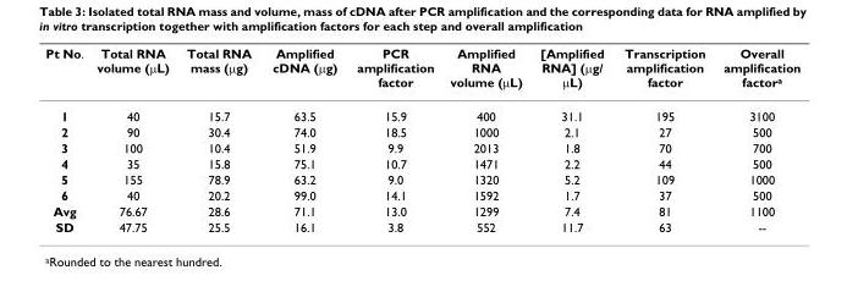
<table><thead><tr><td>Pt No.</td><td>Total RNA volume (µL)</td><td>Total RNA mass (µg)</td><td>Amplified cDNA (µg)</td><td>PCR amplification factor</td><td>Amplified RNA volume (µL)</td><td>[Amplified RNA] (µg/ µL)</td><td>Transcription amplification factor</td><td>Overall amplification factor<sup>a</sup></td></tr></thead><tbody><tr><td>1</td><td>40</td><td>15.7</td><td>63.5</td><td>15.9</td><td>400</td><td>31.1</td><td>195</td><td>3100</td></tr><tr><td>2</td><td>90</td><td>30.4</td><td>74.0</td><td>18.5</td><td>1000</td><td>2.1</td><td>27</td><td>500</td></tr><tr><td>3</td><td>100</td><td>10.4</td><td>51.9</td><td>9.9</td><td>2013</td><td>1.8</td><td>70</td><td>700</td></tr><tr><td>4</td><td>35</td><td>15.8</td><td>75.1</td><td>10.7</td><td>1471</td><td>2.2</td><td>44</td><td>500</td></tr><tr><td>5</td><td>155</td><td>78.9</td><td>63.2</td><td>9.0</td><td>1320</td><td>5.2</td><td>109</td><td>1000</td></tr><tr><td>6</td><td>40</td><td>20.2</td><td>99.0</td><td>14.1</td><td>1592</td><td>1.7</td><td>37</td><td>500</td></tr><tr><td>Avg</td><td>76.67</td><td>28.6</td><td>71.1</td><td>13.0</td><td>1299</td><td>7.4</td><td>81</td><td>1100</td></tr><tr><td>SD</td><td>47.75</td><td>25.5</td><td>16.1</td><td>3.8</td><td>552</td><td>11.7</td><td>63</td><td>--</td></tr></tbody></table>